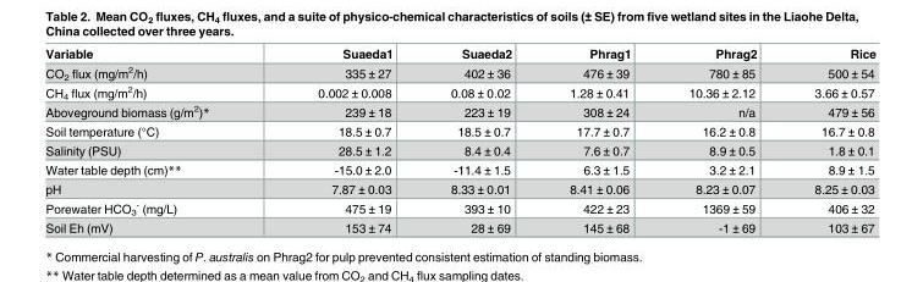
<table><thead><tr><td>Variable</td><td>Suaeda1</td><td>Suaeda2</td><td>Phrag1</td><td>Phrag2</td><td>Rice</td></tr></thead><tbody><tr><td>CO<sub>2</sub> flux (mg/m<sup>2</sup>/h)</td><td>335 ± 27</td><td>402 ± 36</td><td>476 ± 39</td><td>780 ± 85</td><td>500 ± 54</td></tr><tr><td>CH<sub>4</sub> flux (mg/m<sup>2</sup>/h)</td><td>0.002 ± 0.008</td><td>0.08 ± 0.02</td><td>1.28 ± 0.41</td><td>10.36 ± 2.12</td><td>3.66 ± 0.57</td></tr><tr><td>Aboveground biomass (g/m<sup>2</sup>)*</td><td>239 ± 18</td><td>223 ± 19</td><td>308 ± 24</td><td>n/a</td><td>479 ± 56</td></tr><tr><td>Soil temperature (°C)</td><td>18.5 ± 0.7</td><td>18.5 ± 0.7</td><td>17.7 ± 0.7</td><td>16.2 ± 0.8</td><td>16.7 ± 0.8</td></tr><tr><td>Salinity (PSU)</td><td>28.5 ± 1.2</td><td>8.4 ± 0.4</td><td>7.6 ± 0.7</td><td>8.9 ± 0.5</td><td>1.8 ± 0.1</td></tr><tr><td>Water table depth (cm)**</td><td>-15.0 ± 2.0</td><td>-11.4 ± 1.5</td><td>6.3 ± 1.5</td><td>3.2 ± 2.1</td><td>8.9 ± 1.5</td></tr><tr><td>pH</td><td>7.87 ± 0.03</td><td>8.33 ± 0.01</td><td>8.41 ± 0.06</td><td>8.23 ± 0.07</td><td>8.25 ± 0.03</td></tr><tr><td>Porewater HCO<sub>3</sub> <sup>-</sup> (mg/L)</td><td>475 ± 19</td><td>393 ± 10</td><td>422 ± 23</td><td>1369 ± 59</td><td>406 ± 32</td></tr><tr><td>Soil Eh (mV)</td><td>153 ± 74</td><td>28 ± 69</td><td>145 ± 68</td><td>-1 ± 69</td><td>103 ± 67</td></tr></tbody></table>